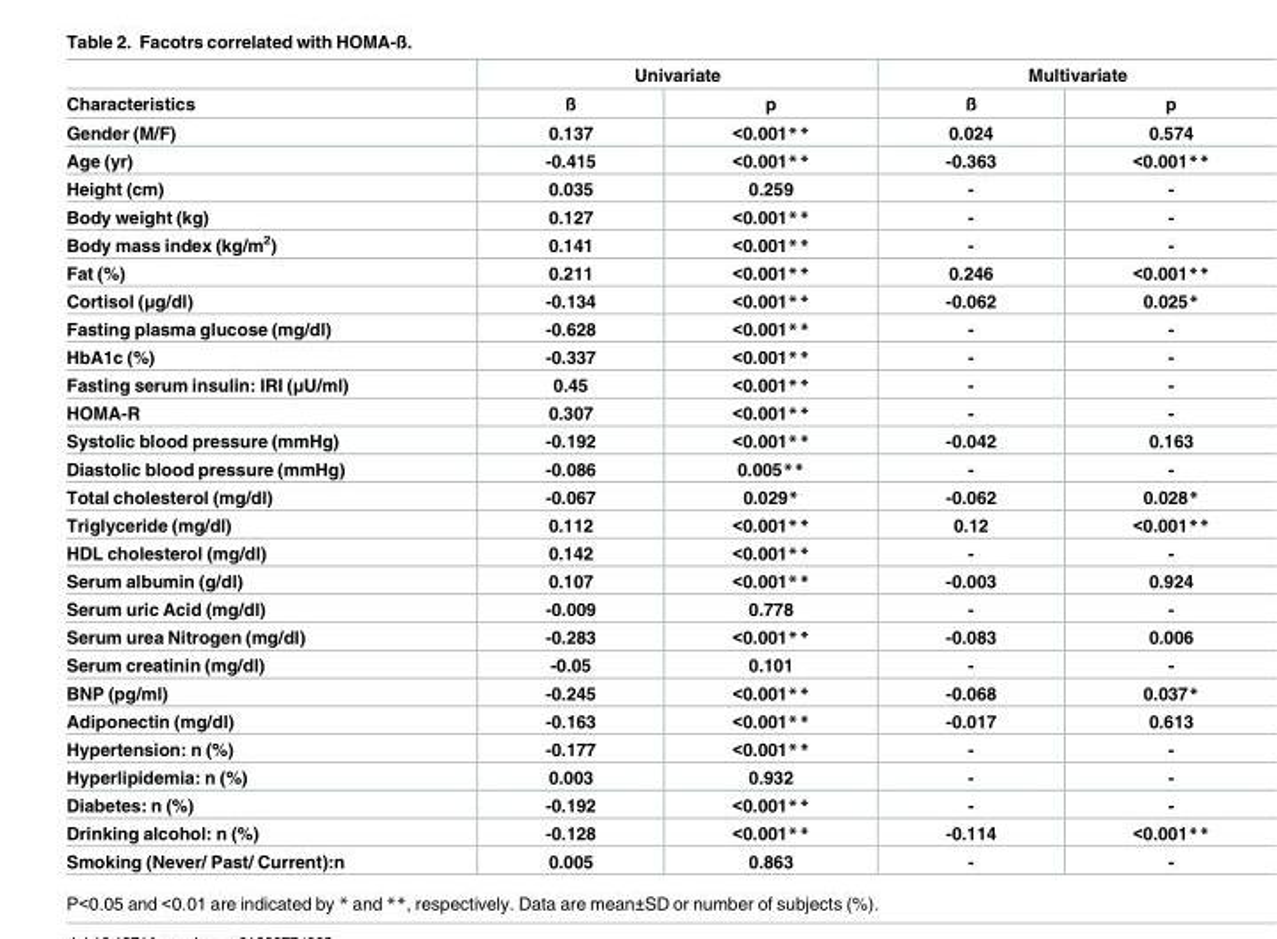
<table><thead><tr><td rowspan="2">Characteristics</td><td colspan="2">Univariate</td><td colspan="2">Multivariate</td></tr><tr><td>ß</td><td>p</td><td>ß</td><td>p</td></tr></thead><tbody><tr><td>Gender (M/F)</td><td>0.137</td><td>&lt;0.001**</td><td>0.024</td><td>0.574</td></tr><tr><td>Age (yr)</td><td>-0.415</td><td>&lt;0.001**</td><td>-0.363</td><td>&lt;0.001**</td></tr><tr><td>Height (cm)</td><td>0.035</td><td>0.259</td><td>-</td><td>-</td></tr><tr><td>Body weight (kg)</td><td>0.127</td><td>&lt;0.001**</td><td>-</td><td>-</td></tr><tr><td>Body mass index (kg/m<sup>2</sup>)</td><td>0.141</td><td>&lt;0.001**</td><td>-</td><td>-</td></tr><tr><td>Fat (%)</td><td>0.211</td><td>&lt;0.001**</td><td>0.246</td><td>&lt;0.001**</td></tr><tr><td>Cortisol (μg/dl)</td><td>-0.134</td><td>&lt;0.001**</td><td>-0.062</td><td>0.025*</td></tr><tr><td>Fasting plasma glucose (mg/dl)</td><td>-0.628</td><td>&lt;0.001**</td><td>-</td><td>-</td></tr><tr><td>HbA1c (%)</td><td>-0.337</td><td>&lt;0.001**</td><td>-</td><td>-</td></tr><tr><td>Fasting serum insulin: IRI (μU/ml)</td><td>0.45</td><td>&lt;0.001**</td><td>-</td><td>-</td></tr><tr><td>HOMA-R</td><td>0.307</td><td>&lt;0.001**</td><td>-</td><td>-</td></tr><tr><td>Systolic blood pressure (mmHg)</td><td>-0.192</td><td>&lt;0.001**</td><td>-0.042</td><td>0.163</td></tr><tr><td>Diastolic blood pressure (mmHg)</td><td>-0.086</td><td>0.005**</td><td>-</td><td>-</td></tr><tr><td>Total cholesterol (mg/dl)</td><td>-0.067</td><td>0.029*</td><td>-0.062</td><td>0.028*</td></tr><tr><td>Triglyceride (mg/dl)</td><td>0.112</td><td>&lt;0.001**</td><td>0.12</td><td>&lt;0.001**</td></tr><tr><td>HDL cholesterol (mg/dl)</td><td>0.142</td><td>&lt;0.001**</td><td>-</td><td>-</td></tr><tr><td>Serum albumin (g/dl)</td><td>0.107</td><td>&lt;0.001**</td><td>-0.003</td><td>0.924</td></tr><tr><td>Serum uric Acid (mg/dl)</td><td>-0.009</td><td>0.778</td><td>-</td><td>-</td></tr><tr><td>Serum urea Nitrogen (mg/dl)</td><td>-0.283</td><td>&lt;0.001**</td><td>-0.083</td><td>0.006</td></tr><tr><td>Serum creatinin (mg/dl)</td><td>-0.05</td><td>0.101</td><td>-</td><td>-</td></tr><tr><td>BNP (pg/ml)</td><td>-0.245</td><td>&lt;0.001**</td><td>-0.068</td><td>0.037*</td></tr><tr><td>Adiponectin (mg/dl)</td><td>-0.163</td><td>&lt;0.001**</td><td>-0.017</td><td>0.613</td></tr><tr><td>Hypertension: n (%)</td><td>-0.177</td><td>&lt;0.001**</td><td>-</td><td>-</td></tr><tr><td>Hyperlipidemia: n (%)</td><td>0.003</td><td>0.932</td><td>-</td><td>-</td></tr><tr><td>Diabetes: n (%)</td><td>-0.192</td><td>&lt;0.001**</td><td>-</td><td>-</td></tr><tr><td>Drinking alcohol: n (%)</td><td>-0.128</td><td>&lt;0.001**</td><td>-0.114</td><td>&lt;0.001**</td></tr><tr><td>Smoking (Never/ Past/ Current):n</td><td>0.005</td><td>0.863</td><td>-</td><td>-</td></tr></tbody></table>